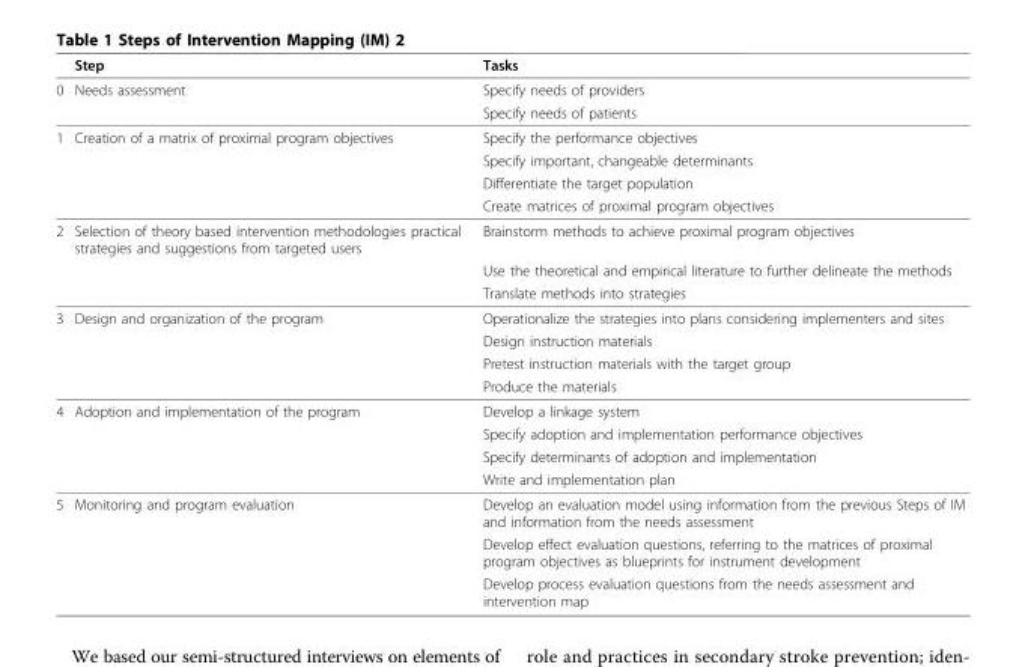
<table><thead><tr><td></td><td>Step</td><td>Tasks</td></tr></thead><tbody><tr><td rowspan="2">0</td><td>Needs assessment</td><td>Specify needs of providers</td></tr><tr><td></td><td>Specify needs of patients</td></tr><tr><td rowspan="4">1</td><td>Creation of a matrix of proximal program objectives</td><td>Specify the performance objectives</td></tr><tr><td></td><td>Specify important, changeable determinants</td></tr><tr><td></td><td>Differentiate the target population</td></tr><tr><td></td><td>Create matrices of proximal program objectives</td></tr><tr><td rowspan="3">2</td><td>Selection of theory based intervention methodologies practical strategies and suggestions from targeted users</td><td>Brainstorm methods to achieve proximal program objectives</td></tr><tr><td></td><td>Use the theoretical and empirical literature to further delineate the methods</td></tr><tr><td></td><td>Translate methods into strategies</td></tr><tr><td rowspan="4">3</td><td>Design and organization of the program</td><td>Operationalize the strategies into plans considering implementers and sites</td></tr><tr><td></td><td>Design instruction materials</td></tr><tr><td></td><td>Pretest instruction materials with the target group</td></tr><tr><td></td><td>Produce the materials</td></tr><tr><td rowspan="4">4</td><td>Adoption and implementation of the program</td><td>Develop a linkage system</td></tr><tr><td></td><td>Specify adoption and implementation performance objectives</td></tr><tr><td></td><td>Specify determinants of adoption and implementation</td></tr><tr><td></td><td>Write and implementation plan</td></tr><tr><td rowspan="3">5</td><td>Monitoring and program evaluation</td><td>Develop an evaluation model using information from the previous Steps of IM and information from the needs assessment</td></tr><tr><td></td><td>Develop effect evaluation questions, referring to the matrices of proximal program objectives as blueprints for instrument development</td></tr><tr><td></td><td>Develop process evaluation questions from the needs assessment and intervention map</td></tr></tbody></table>